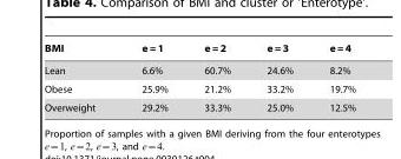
<table><thead><tr><td>BMI</td><td>e = 1</td><td>e = 2</td><td>e = 3</td><td>e = 4</td></tr></thead><tbody><tr><td>Lean</td><td>6.6%</td><td>60.7%</td><td>24.6%</td><td>8.2%</td></tr><tr><td>Obese</td><td>25.9%</td><td>21.2%</td><td>33.2%</td><td>19.7%</td></tr><tr><td>Overweight</td><td>29.2%</td><td>33.3%</td><td>25.0%</td><td>12.5%</td></tr></tbody></table>